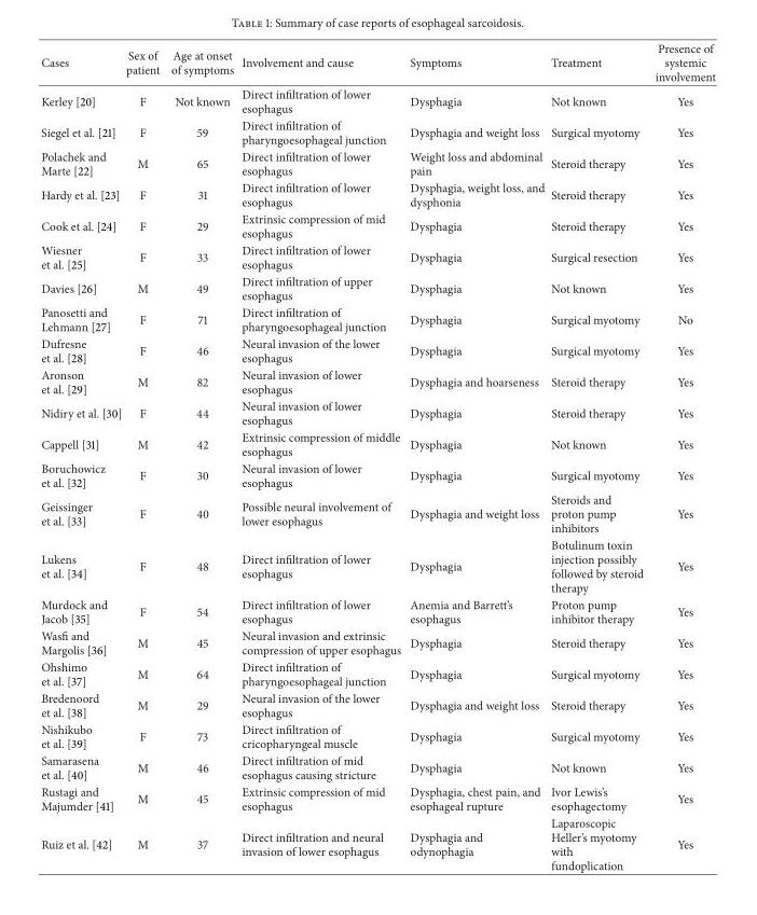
<table><thead><tr><td>Cases</td><td>Sex of patient</td><td>Age at onset of symptoms</td><td>Involvement and cause</td><td>Symptoms</td><td>Treatment</td><td>Presence of systemic involvement</td></tr></thead><tbody><tr><td>Kerley [20]</td><td>F</td><td>Not known</td><td>Direct infiltration of lower esophagus</td><td>Dysphagia</td><td>Not known</td><td>Yes</td></tr><tr><td>Siegel et al. [21]</td><td>F</td><td>59</td><td>Direct infiltration of pharyngoesophageal junction</td><td>Dysphagia and weight loss</td><td>Surgical myotomy</td><td>Yes</td></tr><tr><td>Polachek and Marte [22]</td><td>M</td><td>65</td><td>Direct infiltration of lower esophagus</td><td>Weight loss and abdominal pain</td><td>Steroid therapy</td><td>Yes</td></tr><tr><td>Hardy et al. [23]</td><td>F</td><td>31</td><td>Direct infiltration of lower esophagus</td><td>Dysphagia, weight loss, and dysphonia</td><td>Steroid therapy</td><td>Yes</td></tr><tr><td>Cook et al. [24]</td><td>F</td><td>29</td><td>Extrinsic compression of mid esophagus</td><td>Dysphagia</td><td>Steroid therapy</td><td>Yes</td></tr><tr><td>Wiesner et al. [25]</td><td>F</td><td>33</td><td>Direct infiltration of lower esophagus</td><td>Dysphagia</td><td>Surgical resection</td><td>Yes</td></tr><tr><td>Davies [26]</td><td>M</td><td>49</td><td>Direct infiltration of upper esophagus</td><td>Dysphagia</td><td>Not known</td><td>Yes</td></tr><tr><td>Panosetti and Lehmann [27]</td><td>F</td><td>71</td><td>Direct infiltration of pharyngoesophageal junction</td><td>Dysphagia</td><td>Surgical myotomy</td><td>No</td></tr><tr><td>Dufresne et al. [28]</td><td>F</td><td>46</td><td>Neural invasion of the lower esophagus</td><td>Dysphagia</td><td>Surgical myotomy</td><td>Yes</td></tr><tr><td>Aronson et al. [29]</td><td>M</td><td>82</td><td>Neural invasion of lower esophagus</td><td>Dysphagia and hoarseness</td><td>Steroid therapy</td><td>Yes</td></tr><tr><td>Nidiry et al. [30]</td><td>F</td><td>44</td><td>Neural invasion of lower esophagus</td><td>Dysphagia</td><td>Steroid therapy</td><td>Yes</td></tr><tr><td>Cappell [31]</td><td>M</td><td>42</td><td>Extrinsic compression of middle esophagus</td><td>Dysphagia</td><td>Not known</td><td>Yes</td></tr><tr><td>Boruchowicz et al. [32]</td><td>F</td><td>30</td><td>Neural invasion of lower esophagus</td><td>Dysphagia</td><td>Surgical myotomy</td><td>Yes</td></tr><tr><td>Geissinger et al. [33]</td><td>F</td><td>40</td><td>Possible neural involvement of lower esophagus</td><td>Dysphagia and weight loss</td><td>Steroids and proton pump inhibitors</td><td>Yes</td></tr><tr><td>Lukens et al. [34]</td><td>F</td><td>48</td><td>Direct infiltration of lower esophagus</td><td>Dysphagia</td><td>Botulinum toxin injection possibly followed by steroid therapy</td><td>Yes</td></tr><tr><td>Murdock and Jacob [35]</td><td>F</td><td>54</td><td>Direct infiltration of lower esophagus</td><td>Anemia and Barrett’s esophagus</td><td>Proton pump inhibitor therapy</td><td>Yes</td></tr><tr><td>Wasfi and Margolis [36]</td><td>M</td><td>45</td><td>Neural invasion and extrinsic compression of upper esophagus</td><td>Dysphagia</td><td>Steroid therapy</td><td>Yes</td></tr><tr><td>Ohshimo et al. [37]</td><td>M</td><td>64</td><td>Direct infiltration of pharyngoesophageal junction</td><td>Dysphagia</td><td>Surgical myotomy</td><td>Yes</td></tr><tr><td>Bredenoord et al. [38]</td><td>M</td><td>29</td><td>Neural invasion of the lower esophagus</td><td>Dysphagia and weight loss</td><td>Steroid therapy</td><td>Yes</td></tr><tr><td>Nishikubo et al. [39]</td><td>F</td><td>73</td><td>Direct infiltration of cricopharyngeal muscle</td><td>Dysphagia</td><td>Surgical myotomy</td><td>Yes</td></tr><tr><td>Samarasena et al. [40]</td><td>M</td><td>46</td><td>Direct infiltration of mid esophagus causing stricture</td><td>Dysphagia</td><td>Not known</td><td>Yes</td></tr><tr><td>Rustagi and Majumder [41]</td><td>M</td><td>45</td><td>Extrinsic compression of mid esophagus</td><td>Dysphagia, chest pain, and esophageal rupture</td><td>Ivor Lewis’s esophagectomy</td><td>Yes</td></tr><tr><td>Ruiz et al. [42]</td><td>M</td><td>37</td><td>Direct infiltration and neural invasion of lower esophagus</td><td>Dysphagia and odynophagia</td><td>Laparoscopic Heller’s myotomy with fundoplication</td><td>Yes</td></tr></tbody></table>